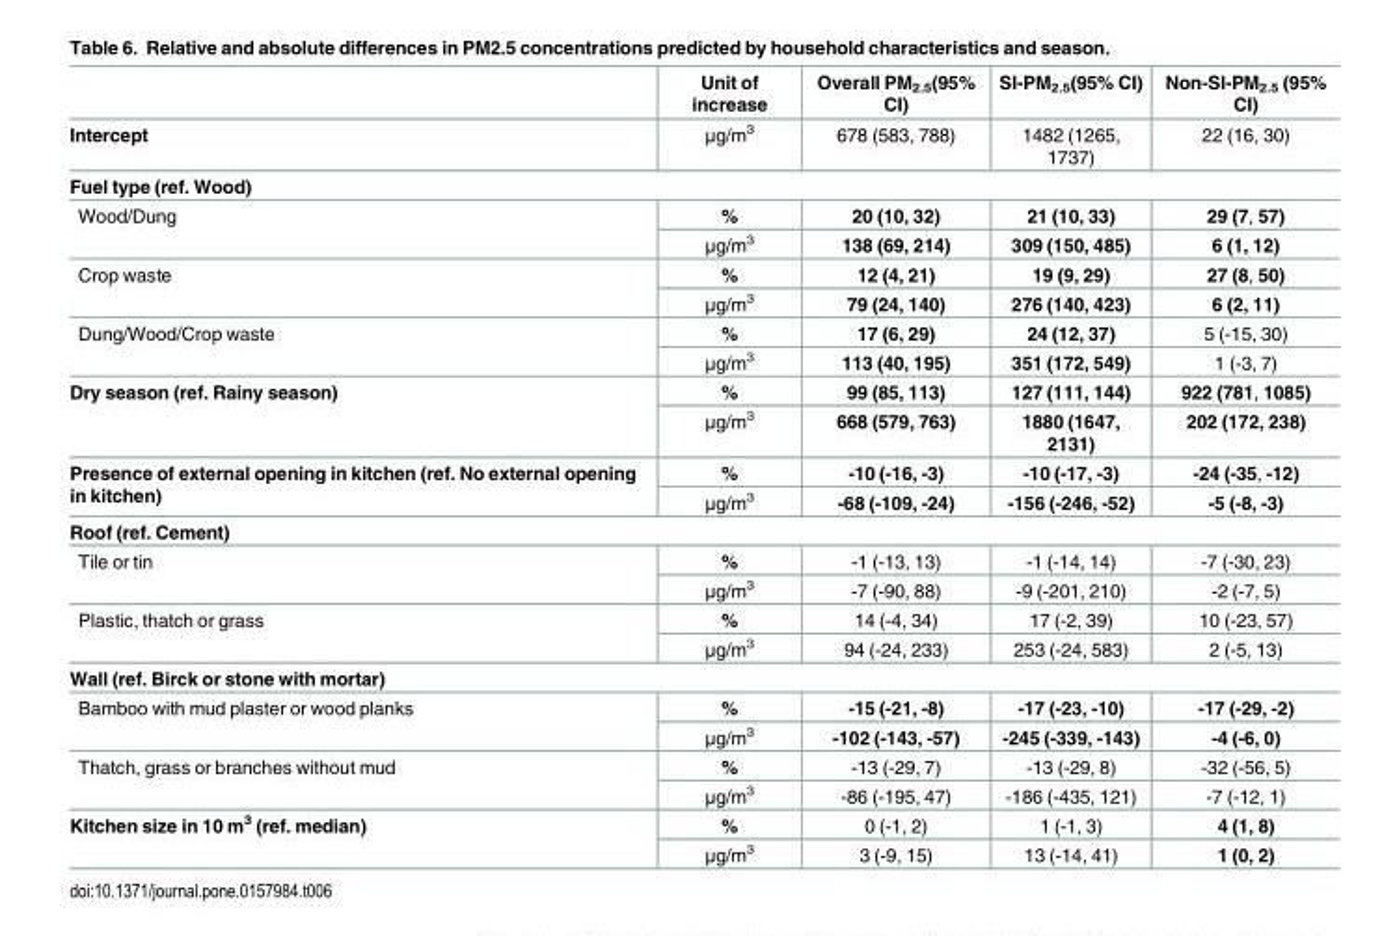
<table><thead><tr><td></td><td>Unit of increase</td><td>Overall PM<sub>2.5</sub>(95% CI)</td><td>SI-PM<sub>2.5</sub>(95% CI)</td><td>Non-SI-PM<sub>2.5</sub> (95% CI)</td></tr></thead><tbody><tr><td>Intercept</td><td>μg/m<sup>3</sup></td><td>678 (583, 788)</td><td>1482 (1265, 1737)</td><td>22 (16, 30)</td></tr><tr><td colspan="5">Fuel type (ref. Wood)</td></tr><tr><td rowspan="2">Wood/Dung</td><td>%</td><td>20 (10, 32)</td><td>21 (10, 33)</td><td>29 (7, 57)</td></tr><tr><td>μg/m<sup>3</sup></td><td>138 (69, 214)</td><td>309 (150, 485)</td><td>6 (1, 12)</td></tr><tr><td rowspan="2">Crop waste</td><td>%</td><td>12 (4, 21)</td><td>19 (9, 29)</td><td>27 (8, 50)</td></tr><tr><td>μg/m<sup>3</sup></td><td>79 (24, 140)</td><td>276 (140, 423)</td><td>6 (2, 11)</td></tr><tr><td rowspan="2">Dung/Wood/Crop waste</td><td>%</td><td>17 (6, 29)</td><td>24 (12, 37)</td><td>5 (-15, 30)</td></tr><tr><td>μg/m<sup>3</sup></td><td>113 (40, 195)</td><td>351 (172, 549)</td><td>1 (-3, 7)</td></tr><tr><td rowspan="2">Dry season (ref. Rainy season)</td><td>%</td><td>99 (85, 113)</td><td>127 (111, 144)</td><td>922 (781, 1085)</td></tr><tr><td>μg/m<sup>3</sup></td><td>668 (579, 763)</td><td>1880 (1647, 2131)</td><td>202 (172, 238)</td></tr><tr><td rowspan="2">Presence of external opening in kitchen (ref. No external opening in kitchen)</td><td>%</td><td>-10 (-16, -3)</td><td>-10 (-17, -3)</td><td>-24 (-35, -12)</td></tr><tr><td>μg/m<sup>3</sup></td><td>-68 (-109, -24)</td><td>-156 (-246, -52)</td><td>-5 (-8, -3)</td></tr><tr><td colspan="5">Roof (ref. Cement)</td></tr><tr><td rowspan="2">Tile or tin</td><td>%</td><td>-1 (-13, 13)</td><td>-1 (-14, 14)</td><td>-7 (-30, 23)</td></tr><tr><td>μg/m<sup>3</sup></td><td>-7 (-90, 88)</td><td>-9 (-201, 210)</td><td>-2 (-7, 5)</td></tr><tr><td rowspan="2">Plastic, thatch or grass</td><td>%</td><td>14 (-4, 34)</td><td>17 (-2, 39)</td><td>10 (-23, 57)</td></tr><tr><td>μg/m<sup>3</sup></td><td>94 (-24, 233)</td><td>253 (-24, 583)</td><td>2 (-5, 13)</td></tr><tr><td colspan="5">Wall (ref. Birck or stone with mortar)</td></tr><tr><td rowspan="2">Bamboo with mud plaster or wood planks</td><td>%</td><td>-15 (-21, -8)</td><td>-17 (-23, -10)</td><td>-17 (-29, -2)</td></tr><tr><td>μg/m<sup>3</sup></td><td>-102 (-143, -57)</td><td>-245 (-339, -143)</td><td>-4 (-6, 0)</td></tr><tr><td rowspan="2">Thatch, grass or branches without mud</td><td>%</td><td>-13 (-29, 7)</td><td>-13 (-29, 8)</td><td>-32 (-56, 5)</td></tr><tr><td>μg/m<sup>3</sup></td><td>-86 (-195, 47)</td><td>-186 (-435, 121)</td><td>-7 (-12, 1)</td></tr><tr><td rowspan="2">Kitchen size in 10 m<sup>3</sup> (ref. median)</td><td>%</td><td>0 (-1, 2)</td><td>1 (-1, 3)</td><td>4 (1, 8)</td></tr><tr><td>μg/m<sup>3</sup></td><td>3 (-9, 15)</td><td>13 (-14, 41)</td><td>1 (0, 2)</td></tr></tbody></table>